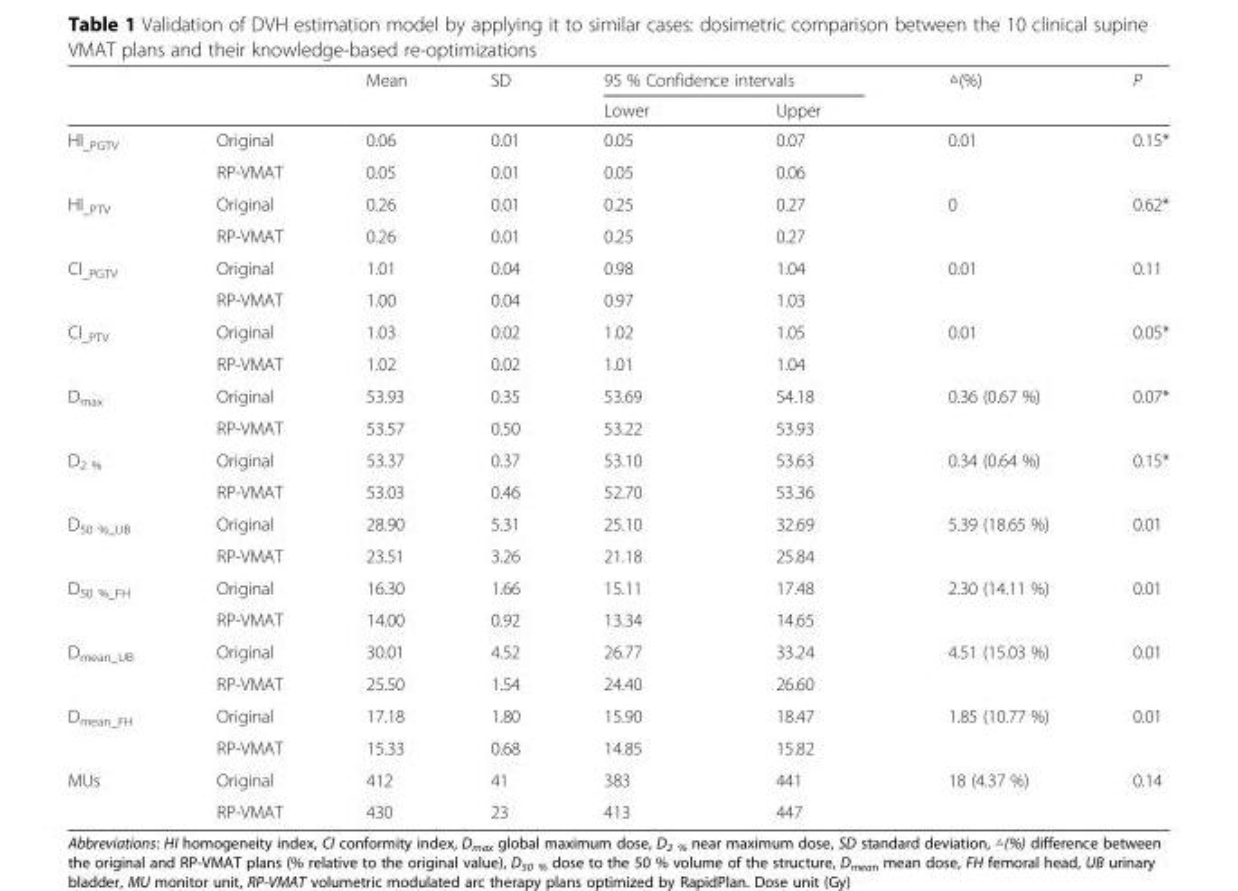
<table><thead><tr><td rowspan="2"></td><td rowspan="2"></td><td rowspan="2">Mean</td><td rowspan="2">SD</td><td colspan="2">95 % Confidence intervals</td><td rowspan="2">△(%)</td><td rowspan="2">P</td></tr><tr><td>Lower</td><td>Upper</td></tr></thead><tbody><tr><td rowspan="2">HI_PGTV</td><td>Original</td><td>0.06</td><td>0.01</td><td>0.05</td><td>0.07</td><td rowspan="2">0.01</td><td rowspan="2">0.15*</td></tr><tr><td>RP-VMAT</td><td>0.05</td><td>0.01</td><td>0.05</td><td>0.06</td></tr><tr><td rowspan="2">HI_PTV</td><td>Original</td><td>0.26</td><td>0.01</td><td>0.25</td><td>0.27</td><td rowspan="2">0</td><td rowspan="2">0.62*</td></tr><tr><td>RP-VMAT</td><td>0.26</td><td>0.01</td><td>0.25</td><td>0.27</td></tr><tr><td rowspan="2">CI_PGTV</td><td>Original</td><td>1.01</td><td>0.04</td><td>0.98</td><td>1.04</td><td rowspan="2">0.01</td><td rowspan="2">0.11</td></tr><tr><td>RP-VMAT</td><td>1.00</td><td>0.04</td><td>0.97</td><td>1.03</td></tr><tr><td rowspan="2">CI_PTV</td><td>Original</td><td>1.03</td><td>0.02</td><td>1.02</td><td>1.05</td><td rowspan="2">0.01</td><td rowspan="2">0.05*</td></tr><tr><td>RP-VMAT</td><td>1.02</td><td>0.02</td><td>1.01</td><td>1.04</td></tr><tr><td rowspan="2">D<sub>max</sub></td><td>Original</td><td>53.93</td><td>0.35</td><td>53.69</td><td>54.18</td><td rowspan="2">0.36 (0.67 %)</td><td rowspan="2">0.07*</td></tr><tr><td>RP-VMAT</td><td>53.57</td><td>0.50</td><td>53.22</td><td>53.93</td></tr><tr><td rowspan="2">D<sub>2 %</sub></td><td>Original</td><td>53.37</td><td>0.37</td><td>53.10</td><td>53.63</td><td rowspan="2">0.34 (0.64 %)</td><td rowspan="2">0.15*</td></tr><tr><td>RP-VMAT</td><td>53.03</td><td>0.46</td><td>52.70</td><td>53.36</td></tr><tr><td rowspan="2">D<sub>50 %_UB</sub></td><td>Original</td><td>28.90</td><td>5.31</td><td>25.10</td><td>32.69</td><td rowspan="2">5.39 (18.65 %)</td><td rowspan="2">0.01</td></tr><tr><td>RP-VMAT</td><td>23.51</td><td>3.26</td><td>21.18</td><td>25.84</td></tr><tr><td rowspan="2">D<sub>50 %_FH</sub></td><td>Original</td><td>16.30</td><td>1.66</td><td>15.11</td><td>17.48</td><td rowspan="2">2.30 (14.11 %)</td><td rowspan="2">0.01</td></tr><tr><td>RP-VMAT</td><td>14.00</td><td>0.92</td><td>13.34</td><td>14.65</td></tr><tr><td rowspan="2">D<sub>mean_UB</sub></td><td>Original</td><td>30.01</td><td>4.52</td><td>26.77</td><td>33.24</td><td rowspan="2">4.51 (15.03 %)</td><td rowspan="2">0.01</td></tr><tr><td>RP-VMAT</td><td>25.50</td><td>1.54</td><td>24.40</td><td>26.60</td></tr><tr><td rowspan="2">D<sub>mean_FH</sub></td><td>Original</td><td>17.18</td><td>1.80</td><td>15.90</td><td>18.47</td><td rowspan="2">1.85 (10.77 %)</td><td rowspan="2">0.01</td></tr><tr><td>RP-VMAT</td><td>15.33</td><td>0.68</td><td>14.85</td><td>15.82</td></tr><tr><td rowspan="2">MUs</td><td>Original</td><td>412</td><td>41</td><td>383</td><td>441</td><td rowspan="2">18 (4.37 %)</td><td rowspan="2">0.14</td></tr><tr><td>RP-VMAT</td><td>430</td><td>23</td><td>413</td><td>447</td></tr></tbody></table>